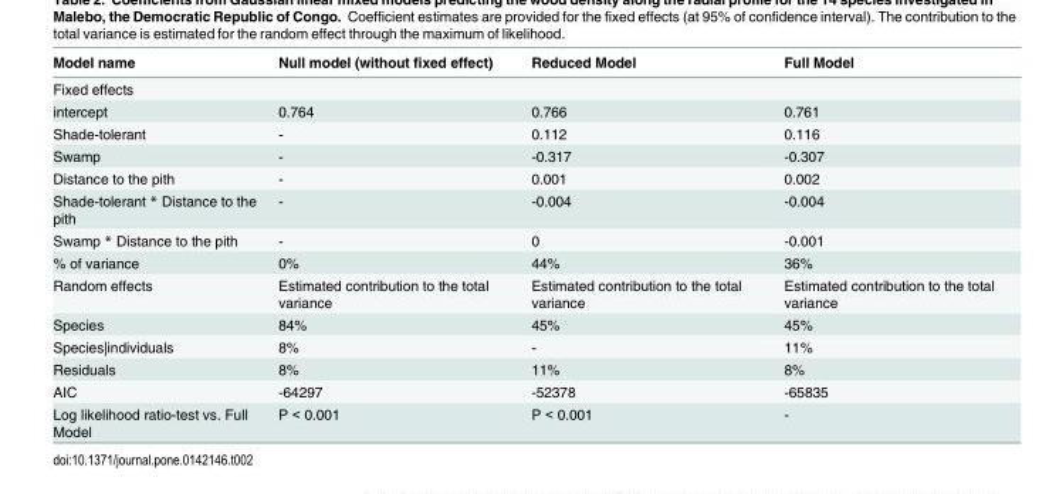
<table><thead><tr><td>Model name</td><td>Null model (without fixed effect)</td><td>Reduced Model</td><td>Full Model</td></tr></thead><tbody><tr><td colspan="4">Fixed effects</td></tr><tr><td>intercept</td><td>0.764</td><td>0.766</td><td>0.761</td></tr><tr><td>Shade-tolerant</td><td>-</td><td>0.112</td><td>0.116</td></tr><tr><td>Swamp</td><td>-</td><td>-0.317</td><td>-0.307</td></tr><tr><td>Distance to the pith</td><td>-</td><td>0.001</td><td>0.002</td></tr><tr><td>Shade-tolerant * Distance to the pith</td><td>-</td><td>-0.004</td><td>-0.004</td></tr><tr><td>Swamp * Distance to the pith</td><td>-</td><td>0</td><td>-0.001</td></tr><tr><td>% of variance</td><td>0%</td><td>44%</td><td>36%</td></tr><tr><td>Random effects</td><td>Estimated contribution to the total variance</td><td>Estimated contribution to the total variance</td><td>Estimated contribution to the total variance</td></tr><tr><td>Species</td><td>84%</td><td>45%</td><td>45%</td></tr><tr><td>Species|individuals</td><td>8%</td><td>-</td><td>11%</td></tr><tr><td>Residuals</td><td>8%</td><td>11%</td><td>8%</td></tr><tr><td>AIC</td><td>-64297</td><td>-52378</td><td>-65835</td></tr><tr><td>Log likelihood ratio-test vs. Full Model</td><td>P &lt; 0.001</td><td>P &lt; 0.001</td><td>-</td></tr></tbody></table>